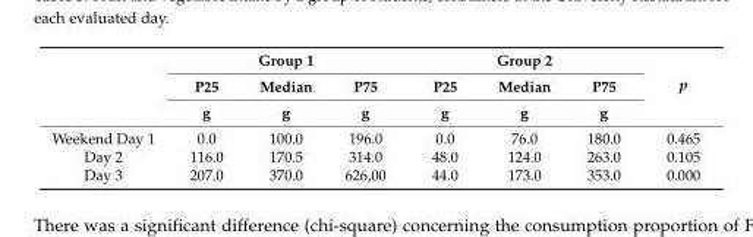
<table><thead><tr><td rowspan="3"></td><td colspan="3">Group 1</td><td colspan="3">Group 2</td><td rowspan="3">p</td></tr><tr><td rowspan="2">P25 g</td><td rowspan="2">Median g</td><td rowspan="2">P75 g</td><td rowspan="2">P25 g</td><td rowspan="2">Median g</td><td rowspan="2">P75 g</td></tr><tr></tr></thead><tbody><tr><td>Weekend Day 1</td><td>0.0</td><td>100.0</td><td>196.0</td><td>0.0</td><td>76.0</td><td>180.0</td><td>0.465</td></tr><tr><td>Day 2</td><td>116.0</td><td>170.5</td><td>314.0</td><td>48.0</td><td>124.0</td><td>263.0</td><td>0.105</td></tr><tr><td>Day 3</td><td>207.0</td><td>370.0</td><td>626,00</td><td>44.0</td><td>173.0</td><td>353.0</td><td>0.000</td></tr></tbody></table>